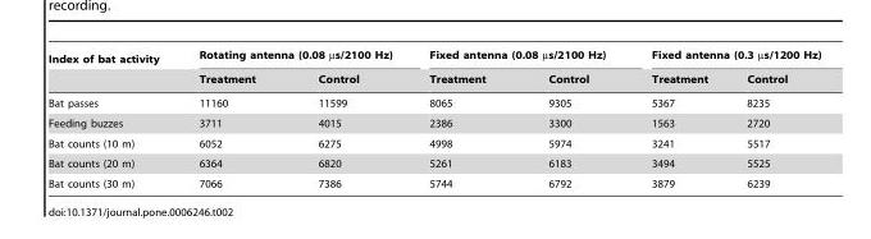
<table><thead><tr><td rowspan="2">Index of bat activity</td><td colspan="2">Rotating antenna (0.08 µs/2100 Hz)</td><td colspan="2">Fixed antenna (0.08 µs/2100 Hz)</td><td colspan="2">Fixed antenna (0.3 µs/1200 Hz)</td></tr><tr><td>Treatment</td><td>Control</td><td>Treatment</td><td>Control</td><td>Treatment</td><td>Control</td></tr></thead><tbody><tr><td>Bat passes</td><td>11160</td><td>11599</td><td>8065</td><td>9305</td><td>5367</td><td>8235</td></tr><tr><td>Feeding buzzes</td><td>3711</td><td>4015</td><td>2386</td><td>3300</td><td>1563</td><td>2720</td></tr><tr><td>Bat counts (10 m)</td><td>6052</td><td>6275</td><td>4998</td><td>5974</td><td>3241</td><td>5517</td></tr><tr><td>Bat counts (20 m)</td><td>6364</td><td>6820</td><td>5261</td><td>6183</td><td>3494</td><td>5525</td></tr><tr><td>Bat counts (30 m)</td><td>7066</td><td>7386</td><td>5744</td><td>6792</td><td>3879</td><td>6239</td></tr></tbody></table>